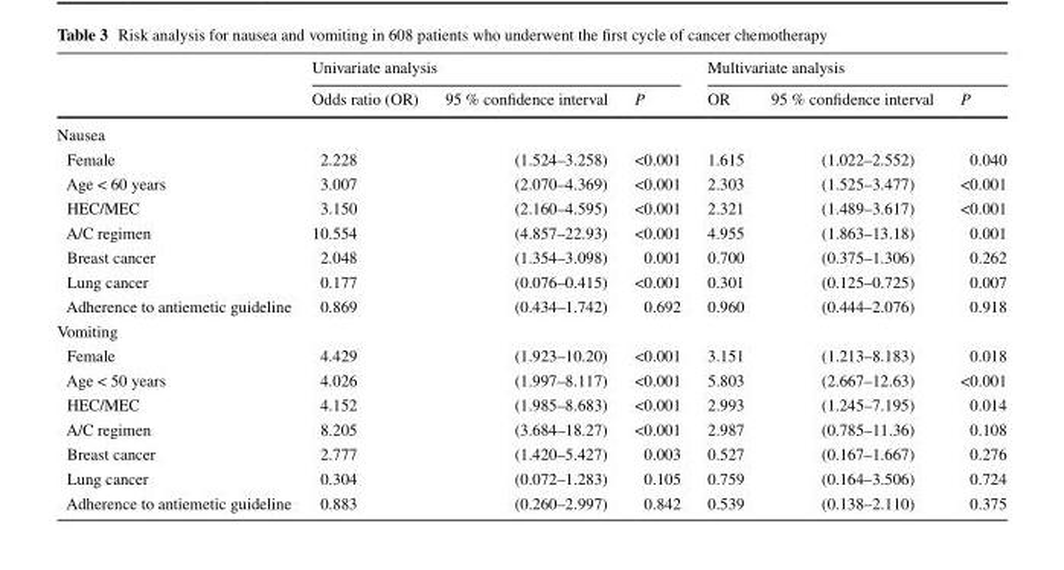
<table><thead><tr><td rowspan="2"></td><td colspan="3">Univariate analysis</td><td colspan="3">Multivariate analysis</td></tr><tr><td>Odds ratio (OR)</td><td>95 % confidence interval</td><td>P</td><td>OR</td><td>95 % confidence interval</td><td>P</td></tr></thead><tbody><tr><td colspan="7">Nausea</td></tr><tr><td>Female</td><td>2.228</td><td>(1.524–3.258)</td><td>&lt;0.001</td><td>1.615</td><td>(1.022–2.552)</td><td>0.040</td></tr><tr><td>Age &lt; 60 years</td><td>3.007</td><td>(2.070–4.369)</td><td>&lt;0.001</td><td>2.303</td><td>(1.525–3.477)</td><td>&lt;0.001</td></tr><tr><td>HEC/MEC</td><td>3.150</td><td>(2.160–4.595)</td><td>&lt;0.001</td><td>2.321</td><td>(1.489–3.617)</td><td>&lt;0.001</td></tr><tr><td>A/C regimen</td><td>10.554</td><td>(4.857–22.93)</td><td>&lt;0.001</td><td>4.955</td><td>(1.863–13.18)</td><td>0.001</td></tr><tr><td>Breast cancer</td><td>2.048</td><td>(1.354–3.098)</td><td>0.001</td><td>0.700</td><td>(0.375–1.306)</td><td>0.262</td></tr><tr><td>Lung cancer</td><td>0.177</td><td>(0.076–0.415)</td><td>&lt;0.001</td><td>0.301</td><td>(0.125–0.725)</td><td>0.007</td></tr><tr><td>Adherence to antiemetic guideline</td><td>0.869</td><td>(0.434–1.742)</td><td>0.692</td><td>0.960</td><td>(0.444–2.076)</td><td>0.918</td></tr><tr><td colspan="7">Vomiting</td></tr><tr><td>Female</td><td>4.429</td><td>(1.923–10.20)</td><td>&lt;0.001</td><td>3.151</td><td>(1.213–8.183)</td><td>0.018</td></tr><tr><td>Age &lt; 50 years</td><td>4.026</td><td>(1.997–8.117)</td><td>&lt;0.001</td><td>5.803</td><td>(2.667–12.63)</td><td>&lt;0.001</td></tr><tr><td>HEC/MEC</td><td>4.152</td><td>(1.985–8.683)</td><td>&lt;0.001</td><td>2.993</td><td>(1.245–7.195)</td><td>0.014</td></tr><tr><td>A/C regimen</td><td>8.205</td><td>(3.684–18.27)</td><td>&lt;0.001</td><td>2.987</td><td>(0.785–11.36)</td><td>0.108</td></tr><tr><td>Breast cancer</td><td>2.777</td><td>(1.420–5.427)</td><td>0.003</td><td>0.527</td><td>(0.167–1.667)</td><td>0.276</td></tr><tr><td>Lung cancer</td><td>0.304</td><td>(0.072–1.283)</td><td>0.105</td><td>0.759</td><td>(0.164–3.506)</td><td>0.724</td></tr><tr><td>Adherence to antiemetic guideline</td><td>0.883</td><td>(0.260–2.997)</td><td>0.842</td><td>0.539</td><td>(0.138–2.110)</td><td>0.375</td></tr></tbody></table>